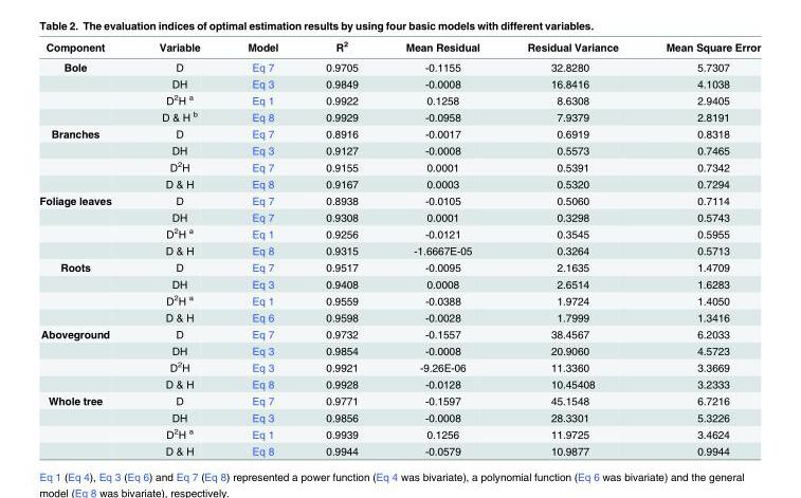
<table><thead><tr><td>Component</td><td>Variable</td><td>Model</td><td>R<sup>2</sup></td><td>Mean Residual</td><td>Residual Variance</td><td>Mean Square Error</td></tr></thead><tbody><tr><td rowspan="4">Bole</td><td>D</td><td>Eq 7</td><td>0.9705</td><td>-0.1155</td><td>32.8280</td><td>5.7307</td></tr><tr><td>DH</td><td>Eq 3</td><td>0.9849</td><td>-0.0008</td><td>16.8416</td><td>4.1038</td></tr><tr><td>D<sup>2</sup>H <sup>a</sup></td><td>Eq 1</td><td>0.9922</td><td>0.1258</td><td>8.6308</td><td>2.9405</td></tr><tr><td>D &amp; H <sup>b</sup></td><td>Eq 8</td><td>0.9929</td><td>-0.0958</td><td>7.9379</td><td>2.8191</td></tr><tr><td rowspan="4">Branches</td><td>D</td><td>Eq 7</td><td>0.8916</td><td>-0.0017</td><td>0.6919</td><td>0.8318</td></tr><tr><td>DH</td><td>Eq 3</td><td>0.9127</td><td>-0.0008</td><td>0.5573</td><td>0.7465</td></tr><tr><td>D<sup>2</sup>H</td><td>Eq 7</td><td>0.9155</td><td>0.0001</td><td>0.5391</td><td>0.7342</td></tr><tr><td>D &amp; H</td><td>Eq 8</td><td>0.9167</td><td>0.0003</td><td>0.5320</td><td>0.7294</td></tr><tr><td rowspan="4">Foliage leaves</td><td>D</td><td>Eq 7</td><td>0.8938</td><td>-0.0105</td><td>0.5060</td><td>0.7114</td></tr><tr><td>DH</td><td>Eq 7</td><td>0.9308</td><td>0.0001</td><td>0.3298</td><td>0.5743</td></tr><tr><td>D<sup>2</sup>H <sup>a</sup></td><td>Eq 1</td><td>0.9256</td><td>-0.0121</td><td>0.3545</td><td>0.5955</td></tr><tr><td>D &amp; H</td><td>Eq 8</td><td>0.9315</td><td>-1.6667E-05</td><td>0.3264</td><td>0.5713</td></tr><tr><td rowspan="4">Roots</td><td>D</td><td>Eq 7</td><td>0.9517</td><td>-0.0095</td><td>2.1635</td><td>1.4709</td></tr><tr><td>DH</td><td>Eq 3</td><td>0.9408</td><td>0.0008</td><td>2.6514</td><td>1.6283</td></tr><tr><td>D<sup>2</sup>H <sup>a</sup></td><td>Eq 1</td><td>0.9559</td><td>-0.0388</td><td>1.9724</td><td>1.4050</td></tr><tr><td>D &amp; H</td><td>Eq 6</td><td>0.9598</td><td>-0.0028</td><td>1.7999</td><td>1.3416</td></tr><tr><td rowspan="4">Aboveground</td><td>D</td><td>Eq 7</td><td>0.9732</td><td>-0.1557</td><td>38.4567</td><td>6.2033</td></tr><tr><td>DH</td><td>Eq 3</td><td>0.9854</td><td>-0.0008</td><td>20.9060</td><td>4.5723</td></tr><tr><td>D<sup>2</sup>H</td><td>Eq 3</td><td>0.9921</td><td>-9.26E-06</td><td>11.3360</td><td>3.3669</td></tr><tr><td>D &amp; H</td><td>Eq 8</td><td>0.9928</td><td>-0.0128</td><td>10.45408</td><td>3.2333</td></tr><tr><td rowspan="4">Whole tree</td><td>D</td><td>Eq 7</td><td>0.9771</td><td>-0.1597</td><td>45.1548</td><td>6.7216</td></tr><tr><td>DH</td><td>Eq 3</td><td>0.9856</td><td>-0.0008</td><td>28.3301</td><td>5.3226</td></tr><tr><td>D<sup>2</sup>H <sup>a</sup></td><td>Eq 1</td><td>0.9939</td><td>0.1256</td><td>11.9725</td><td>3.4624</td></tr><tr><td>D &amp; H</td><td>Eq 8</td><td>0.9944</td><td>-0.0579</td><td>10.9877</td><td>0.9944</td></tr></tbody></table>